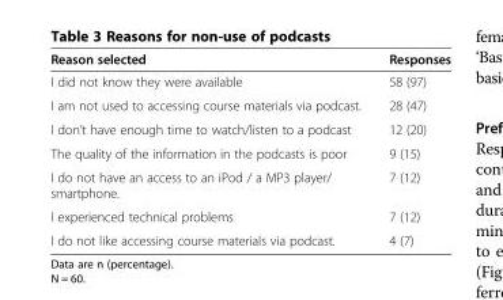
<table><thead><tr><td>Reason selected</td><td>Responses</td></tr></thead><tbody><tr><td>I did not know they were available</td><td>58 (97)</td></tr><tr><td>I am not used to accessing course materials via podcast.</td><td>28 (47)</td></tr><tr><td>I don’t have enough time to watch/listen to a podcast</td><td>12 (20)</td></tr><tr><td>The quality of the information in the podcasts is poor</td><td>9 (15)</td></tr><tr><td>I do not have an access to an iPod / a MP3 player/ smartphone.</td><td>7 (12)</td></tr><tr><td>I experienced technical problems</td><td>7 (12)</td></tr><tr><td>I do not like accessing course materials via podcast.</td><td>4 (7)</td></tr></tbody></table>